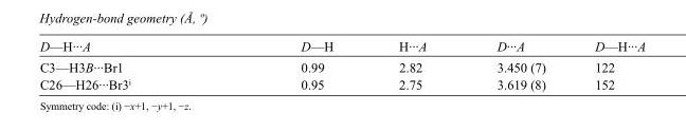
<table><tbody><tr><td>D—H···A</td><td>D—H</td><td>H···A</td><td>D···A</td><td>D—H···A</td></tr><tr><td>C3—H3B···Br1</td><td>0.99</td><td>2.82</td><td>3.450 (7)</td><td>122</td></tr><tr><td>C26—H26···Br3<sup>i</sup></td><td>0.95</td><td>2.75</td><td>3.619 (8)</td><td>152</td></tr></tbody></table>